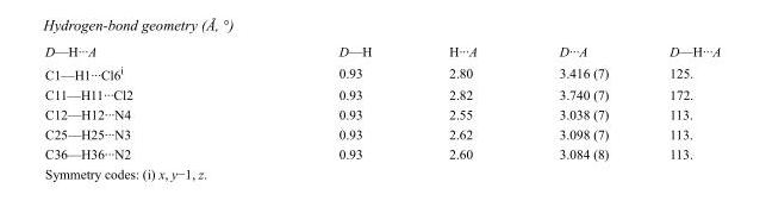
<table><tbody><tr><td>D—H···A</td><td>D—H</td><td>H···A</td><td>D···A</td><td>D—H···A</td></tr><tr><td>C1—H1···Cl6<sup>i</sup></td><td>0.93</td><td>2.80</td><td>3.416 (7)</td><td>125.</td></tr><tr><td>C11—H11···Cl2</td><td>0.93</td><td>2.82</td><td>3.740 (7)</td><td>172.</td></tr><tr><td>C12—H12···N4</td><td>0.93</td><td>2.55</td><td>3.038 (7)</td><td>113.</td></tr><tr><td>C25—H25···N3</td><td>0.93</td><td>2.62</td><td>3.098 (7)</td><td>113.</td></tr><tr><td>C36—H36···N2</td><td>0.93</td><td>2.60</td><td>3.084 (8)</td><td>113.</td></tr></tbody></table>